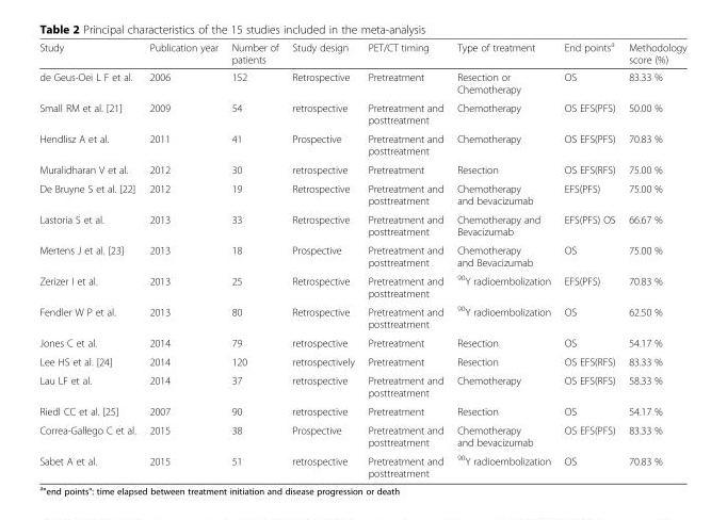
<table><thead><tr><td>Study</td><td>Publication year</td><td>Number of patients</td><td>Study design</td><td>PET/CT timing</td><td>Type of treatment</td><td>End points<sup>a</sup></td><td>Methodology score (%)</td></tr></thead><tbody><tr><td>de Geus-Oei L F et al.</td><td>2006</td><td>152</td><td>Retrospective</td><td>Pretreatment</td><td>Resection or Chemotherapy</td><td>OS</td><td>83.33 %</td></tr><tr><td>Small RM et al. [21]</td><td>2009</td><td>54</td><td>retrospective</td><td>Pretreatment and posttreatment</td><td>Chemotherapy</td><td>OS EFS(PFS)</td><td>50.00 %</td></tr><tr><td>Hendlisz A et al.</td><td>2011</td><td>41</td><td>Prospective</td><td>Pretreatment and posttreatment</td><td>Chemotherapy</td><td>OS EFS(PFS)</td><td>70.83 %</td></tr><tr><td>Muralidharan V et al.</td><td>2012</td><td>30</td><td>retrospective</td><td>Pretreatment</td><td>Resection</td><td>OS EFS(RFS)</td><td>75.00 %</td></tr><tr><td>De Bruyne S et al. [22]</td><td>2012</td><td>19</td><td>Retrospective</td><td>Pretreatment and posttreatment</td><td>Chemotherapy and bevacizumab</td><td>EFS(PFS)</td><td>75.00 %</td></tr><tr><td>Lastoria S et al.</td><td>2013</td><td>33</td><td>Retrospective</td><td>Pretreatment and posttreatment</td><td>Chemotherapy and Bevacizumab</td><td>EFS(PFS) OS</td><td>66.67 %</td></tr><tr><td>Mertens J et al. [23]</td><td>2013</td><td>18</td><td>Prospective</td><td>Pretreatment and posttreatment</td><td>Chemotherapy and Bevacizumab</td><td>OS</td><td>75.00 %</td></tr><tr><td>Zerizer I et al.</td><td>2013</td><td>25</td><td>Retrospective</td><td>Pretreatment and posttreatment</td><td><sup>90</sup>Y radioembolization</td><td>EFS(PFS)</td><td>70.83 %</td></tr><tr><td>Fendler W P et al.</td><td>2013</td><td>80</td><td>Retrospective</td><td>Pretreatment and posttreatment</td><td><sup>90</sup>Y radioembolization</td><td>OS</td><td>62.50 %</td></tr><tr><td>Jones C et al.</td><td>2014</td><td>79</td><td>retrospective</td><td>Pretreatment</td><td>Resection</td><td>OS</td><td>54.17 %</td></tr><tr><td>Lee HS et al. [24]</td><td>2014</td><td>120</td><td>retrospectively</td><td>Pretreatment</td><td>Resection</td><td>OS EFS(RFS)</td><td>83.33 %</td></tr><tr><td>Lau LF et al.</td><td>2014</td><td>37</td><td>retrospective</td><td>Pretreatment and posttreatment</td><td>Chemotherapy</td><td>OS EFS(RFS)</td><td>58.33 %</td></tr><tr><td>Riedl CC et al. [25]</td><td>2007</td><td>90</td><td>retrospective</td><td>Pretreatment</td><td>Resection</td><td>OS</td><td>54.17 %</td></tr><tr><td>Correa-Gallego C et al.</td><td>2015</td><td>38</td><td>Prospective</td><td>Pretreatment and posttreatment</td><td>Chemotherapy and bevacizumab</td><td>OS EFS(PFS)</td><td>83.33 %</td></tr><tr><td>Sabet A et al.</td><td>2015</td><td>51</td><td>retrospective</td><td>Pretreatment and posttreatment</td><td><sup>90</sup>Y radioembolization</td><td>OS</td><td>70.83 %</td></tr></tbody></table>